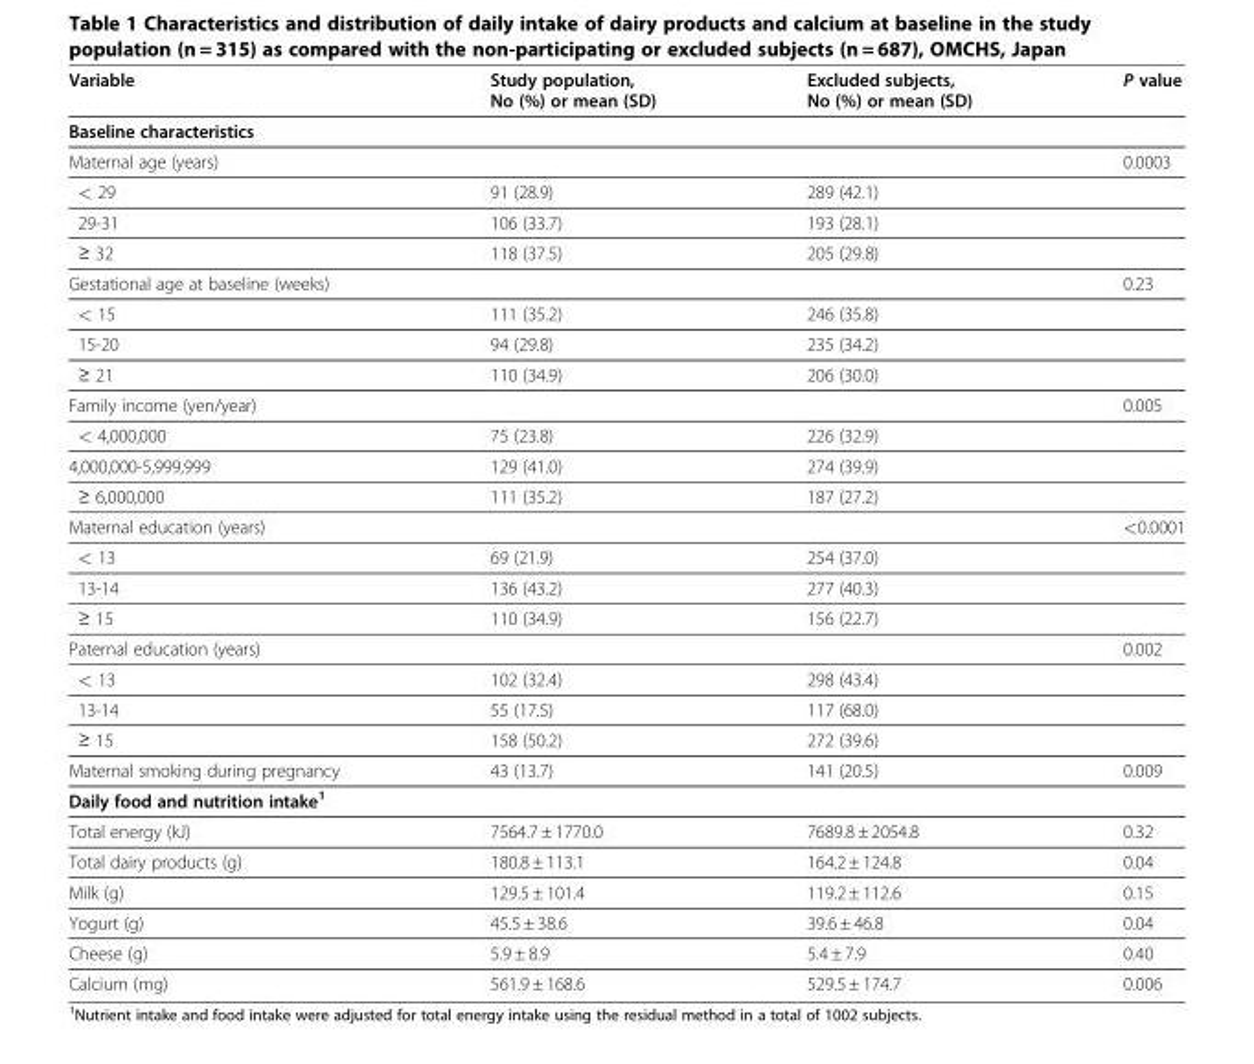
<table><thead><tr><td>Variable</td><td>Study population, No (%) or mean (SD)</td><td>Excluded subjects, No (%) or mean (SD)</td><td>P value</td></tr></thead><tbody><tr><td colspan="4">Baseline characteristics</td></tr><tr><td>Maternal age (years)</td><td></td><td></td><td>0.0003</td></tr><tr><td>&lt; 29</td><td>91 (28.9)</td><td>289 (42.1)</td><td></td></tr><tr><td>29-31</td><td>106 (33.7)</td><td>193 (28.1)</td><td></td></tr><tr><td>≥ 32</td><td>118 (37.5)</td><td>205 (29.8)</td><td></td></tr><tr><td>Gestational age at baseline (weeks)</td><td></td><td></td><td>0.23</td></tr><tr><td>&lt; 15</td><td>111 (35.2)</td><td>246 (35.8)</td><td></td></tr><tr><td>15-20</td><td>94 (29.8)</td><td>235 (34.2)</td><td></td></tr><tr><td>≥ 21</td><td>110 (34.9)</td><td>206 (30.0)</td><td></td></tr><tr><td>Family income (yen/year)</td><td></td><td></td><td>0.005</td></tr><tr><td>&lt; 4,000,000</td><td>75 (23.8)</td><td>226 (32.9)</td><td></td></tr><tr><td>4,000,000-5,999,999</td><td>129 (41.0)</td><td>274 (39.9)</td><td></td></tr><tr><td>≥ 6,000,000</td><td>111 (35.2)</td><td>187 (27.2)</td><td></td></tr><tr><td>Maternal education (years)</td><td></td><td></td><td>&lt;0.0001</td></tr><tr><td>&lt; 13</td><td>69 (21.9)</td><td>254 (37.0)</td><td></td></tr><tr><td>13-14</td><td>136 (43.2)</td><td>277 (40.3)</td><td></td></tr><tr><td>≥ 15</td><td>110 (34.9)</td><td>156 (22.7)</td><td></td></tr><tr><td>Paternal education (years)</td><td></td><td></td><td>0.002</td></tr><tr><td>&lt; 13</td><td>102 (32.4)</td><td>298 (43.4)</td><td></td></tr><tr><td>13-14</td><td>55 (17.5)</td><td>117 (68.0)</td><td></td></tr><tr><td>≥ 15</td><td>158 (50.2)</td><td>272 (39.6)</td><td></td></tr><tr><td>Maternal smoking during pregnancy</td><td>43 (13.7)</td><td>141 (20.5)</td><td>0.009</td></tr><tr><td colspan="4">Daily food and nutrition intake<sup>1</sup></td></tr><tr><td>Total energy (kJ)</td><td>7564.7 ± 1770.0</td><td>7689.8 ± 2054.8</td><td>0.32</td></tr><tr><td>Total dairy products (g)</td><td>180.8 ± 113.1</td><td>164.2 ± 124.8</td><td>0.04</td></tr><tr><td>Milk (g)</td><td>129.5 ± 101.4</td><td>119.2 ± 112.6</td><td>0.15</td></tr><tr><td>Yogurt (g)</td><td>45.5 ± 38.6</td><td>39.6 ± 46.8</td><td>0.04</td></tr><tr><td>Cheese (g)</td><td>5.9 ± 8.9</td><td>5.4 ± 7.9</td><td>0.40</td></tr><tr><td>Calcium (mg)</td><td>561.9 ± 168.6</td><td>529.5 ± 174.7</td><td>0.006</td></tr></tbody></table>